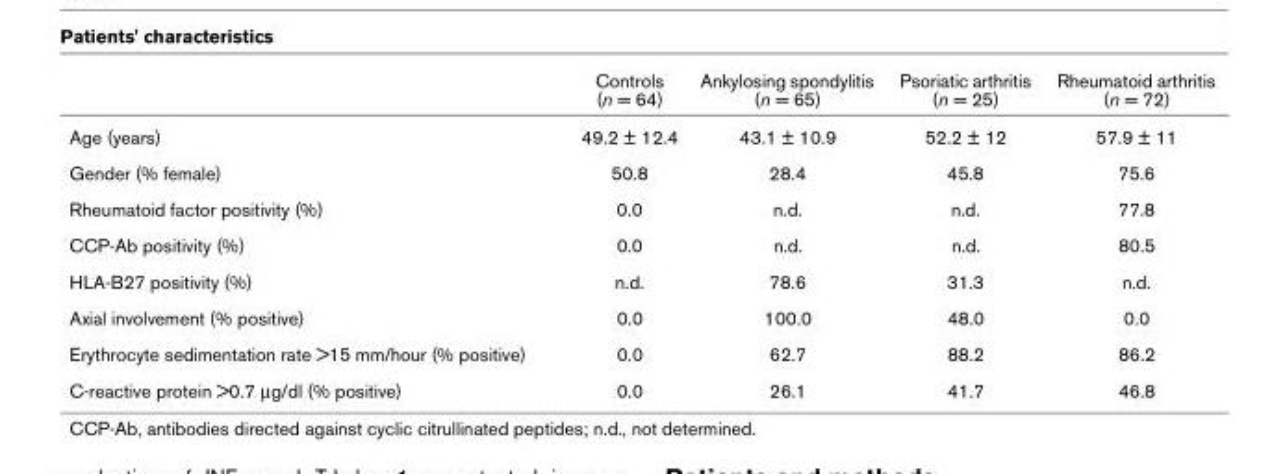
<table><thead><tr><td></td><td>Controls (n = 64)</td><td>Ankylosing spondylitis (n = 65)</td><td>Psoriatic arthritis (n = 25)</td><td>Rheumatoid arthritis (n = 72)</td></tr></thead><tbody><tr><td>Age (years)</td><td>49.2 ± 12.4</td><td>43.1 ± 10.9</td><td>52.2 ± 12</td><td>57.9 ± 11</td></tr><tr><td>Gender (% female)</td><td>50.8</td><td>28.4</td><td>45.8</td><td>75.6</td></tr><tr><td>Rheumatoid factor positivity (%)</td><td>0.0</td><td>n.d.</td><td>n.d.</td><td>77.8</td></tr><tr><td>CCP-Ab positivity (%)</td><td>0.0</td><td>n.d.</td><td>n.d.</td><td>80.5</td></tr><tr><td>HLA-B27 positivity (%)</td><td>n.d.</td><td>78.6</td><td>31.3</td><td>n.d.</td></tr><tr><td>Axial involvement (% positive)</td><td>0.0</td><td>100.0</td><td>48.0</td><td>0.0</td></tr><tr><td>Erythrocyte sedimentation rate &gt;15 mm/hour (% positive)</td><td>0.0</td><td>62.7</td><td>88.2</td><td>86.2</td></tr><tr><td>C-reactive protein &gt;0.7 µg/dl (% positive)</td><td>0.0</td><td>26.1</td><td>41.7</td><td>46.8</td></tr></tbody></table>